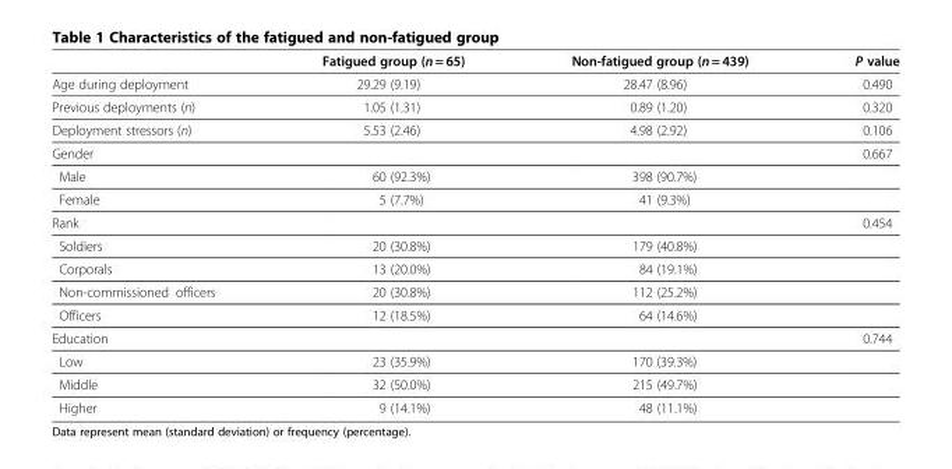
<table><thead><tr><td></td><td>Fatigued group (n = 65)</td><td>Non-fatigued group (n = 439)</td><td>P value</td></tr></thead><tbody><tr><td>Age during deployment</td><td>29.29 (9.19)</td><td>28.47 (8.96)</td><td>0.490</td></tr><tr><td>Previous deployments (n)</td><td>1.05 (1.31)</td><td>0.89 (1.20)</td><td>0.320</td></tr><tr><td>Deployment stressors (n)</td><td>5.53 (2.46)</td><td>4.98 (2.92)</td><td>0.106</td></tr><tr><td>Gender</td><td></td><td></td><td>0.667</td></tr><tr><td>Male</td><td>60 (92.3%)</td><td>398 (90.7%)</td><td></td></tr><tr><td>Female</td><td>5 (7.7%)</td><td>41 (9.3%)</td><td></td></tr><tr><td>Rank</td><td></td><td></td><td>0.454</td></tr><tr><td>Soldiers</td><td>20 (30.8%)</td><td>179 (40.8%)</td><td></td></tr><tr><td>Corporals</td><td>13 (20.0%)</td><td>84 (19.1%)</td><td></td></tr><tr><td>Non-commissioned officers</td><td>20 (30.8%)</td><td>112 (25.2%)</td><td></td></tr><tr><td>Officers</td><td>12 (18.5%)</td><td>64 (14.6%)</td><td></td></tr><tr><td>Education</td><td></td><td></td><td>0.744</td></tr><tr><td>Low</td><td>23 (35.9%)</td><td>170 (39.3%)</td><td></td></tr><tr><td>Middle</td><td>32 (50.0%)</td><td>215 (49.7%)</td><td></td></tr><tr><td>Higher</td><td>9 (14.1%)</td><td>48 (11.1%)</td><td></td></tr></tbody></table>